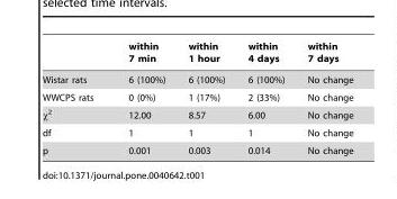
<table><thead><tr><td></td><td>within 7 min</td><td>within 1 hour</td><td>within 4 days</td><td>within 7 days</td></tr></thead><tbody><tr><td>Wistar rats</td><td>6 (100%)</td><td>6 (100%)</td><td>6 (100%)</td><td>No change</td></tr><tr><td>WWCPS rats</td><td>0 (0%)</td><td>1 (17%)</td><td>2 (33%)</td><td>No change</td></tr><tr><td>χ<sup>2</sup></td><td>12.00</td><td>8.57</td><td>6.00</td><td>No change</td></tr><tr><td>df</td><td>1</td><td>1</td><td>1</td><td>No change</td></tr><tr><td>p</td><td>0.001</td><td>0.003</td><td>0.014</td><td>No change</td></tr></tbody></table>